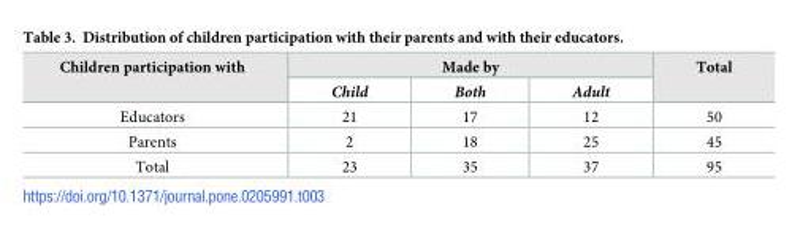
<table><thead><tr><td rowspan="2">Children participation with</td><td colspan="3">Made by</td><td rowspan="2">Total</td></tr><tr><td>Child</td><td>Both</td><td>Adult</td></tr></thead><tbody><tr><td>Educators</td><td>21</td><td>17</td><td>12</td><td>50</td></tr><tr><td>Parents</td><td>2</td><td>18</td><td>25</td><td>45</td></tr><tr><td>Total</td><td>23</td><td>35</td><td>37</td><td>95</td></tr></tbody></table>